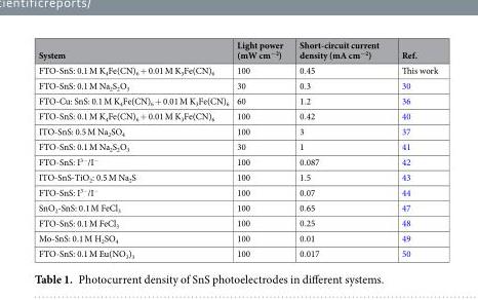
<table><thead><tr><td>System</td><td>Light power (mW cm<sup>−2</sup>)</td><td>Short-circuit current density (mA cm<sup>−2</sup>)</td><td>Ref.</td></tr></thead><tbody><tr><td>FTO-SnS: 0.1 M K<sub>4</sub>Fe(CN)<sub>6</sub> + 0.01 M K<sub>3</sub>Fe(CN)<sub>6</sub></td><td>100</td><td>0.45</td><td>This work</td></tr><tr><td>FTO-SnS: 0.1 M Na<sub>2</sub>S<sub>2</sub>O<sub>3</sub></td><td>30</td><td>0.3</td><td>30</td></tr><tr><td>FTO-Cu: SnS: 0.1 M K<sub>4</sub>Fe(CN)<sub>6</sub> + 0.01 M K<sub>3</sub>Fe(CN)<sub>6</sub></td><td>60</td><td>1.2</td><td>36</td></tr><tr><td>FTO-SnS: 0.1 M K<sub>4</sub>Fe(CN)<sub>6</sub> + 0.01 M K<sub>3</sub>Fe(CN)<sub>6</sub></td><td>100</td><td>0.42</td><td>40</td></tr><tr><td>ITO-SnS: 0.5 M Na<sub>2</sub>SO<sub>4</sub></td><td>100</td><td>3</td><td>37</td></tr><tr><td>FTO-SnS: 0.1 M Na<sub>2</sub>S<sub>2</sub>O<sub>3</sub></td><td>30</td><td>1</td><td>41</td></tr><tr><td>FTO-SnS: I<sup>3−</sup>/I<sup>−</sup></td><td>100</td><td>0.087</td><td>42</td></tr><tr><td>ITO-SnS-TiO<sub>2</sub>: 0.5 M Na<sub>2</sub>S</td><td>100</td><td>1.5</td><td>43</td></tr><tr><td>FTO-SnS: I<sup>3−</sup>/I<sup>−</sup></td><td>100</td><td>0.07</td><td>44</td></tr><tr><td>SnO<sub>2</sub>-SnS: 0.1 M FeCl<sub>3</sub></td><td>100</td><td>0.65</td><td>47</td></tr><tr><td>FTO-SnS: 0.1 M FeCl<sub>3</sub></td><td>100</td><td>0.25</td><td>48</td></tr><tr><td>Mo-SnS: 0.1 M H<sub>2</sub>SO<sub>4</sub></td><td>100</td><td>0.01</td><td>49</td></tr><tr><td>FTO-SnS: 0.1 M Eu(NO<sub>3</sub>)<sub>3</sub></td><td>100</td><td>0.017</td><td>50</td></tr></tbody></table>